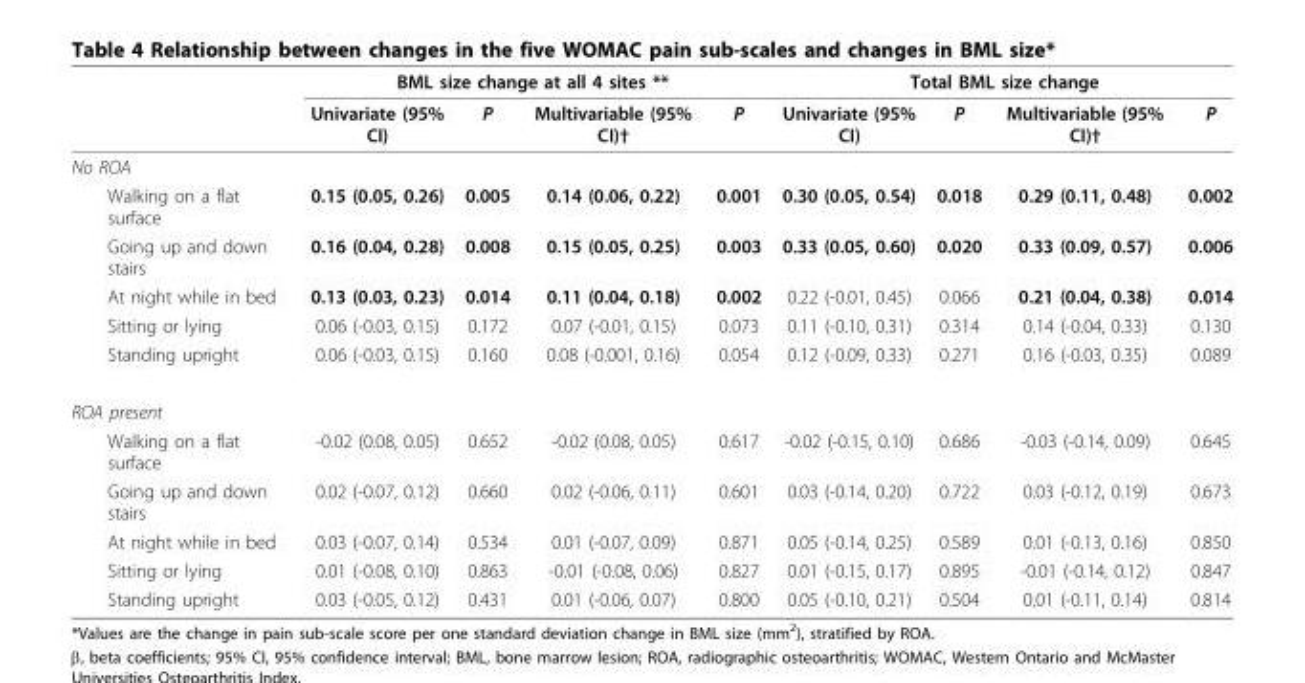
<table><thead><tr><td rowspan="2"></td><td colspan="4">BML size change at all 4 sites **</td><td colspan="4">Total BML size change</td></tr><tr><td>Univariate (95% CI)</td><td>P</td><td>Multivariable (95% CI)†</td><td>P</td><td>Univariate (95% CI)</td><td>P</td><td>Multivariable (95% CI)†</td><td>P</td></tr></thead><tbody><tr><td colspan="9">No ROA</td></tr><tr><td>Walking on a flat surface</td><td>0.15 (0.05, 0.26)</td><td>0.005</td><td>0.14 (0.06, 0.22)</td><td>0.001</td><td>0.30 (0.05, 0.54)</td><td>0.018</td><td>0.29 (0.11, 0.48)</td><td>0.002</td></tr><tr><td>Going up and down stairs</td><td>0.16 (0.04, 0.28)</td><td>0.008</td><td>0.15 (0.05, 0.25)</td><td>0.003</td><td>0.33 (0.05, 0.60)</td><td>0.020</td><td>0.33 (0.09, 0.57)</td><td>0.006</td></tr><tr><td>At night while in bed</td><td>0.13 (0.03, 0.23)</td><td>0.014</td><td>0.11 (0.04, 0.18)</td><td>0.002</td><td>0.22 (-0.01, 0.45)</td><td>0.066</td><td>0.21 (0.04, 0.38)</td><td>0.014</td></tr><tr><td>Sitting or lying</td><td>0.06 (-0.03, 0.15)</td><td>0.172</td><td>0.07 (-0.01, 0.15)</td><td>0.073</td><td>0.11 (-0.10, 0.31)</td><td>0.314</td><td>0.14 (-0.04, 0.33)</td><td>0.130</td></tr><tr><td>Standing upright</td><td>0.06 (-0.03, 0.15)</td><td>0.160</td><td>0.08 (-0.001, 0.16)</td><td>0.054</td><td>0.12 (-0.09, 0.33)</td><td>0.271</td><td>0.16 (-0.03, 0.35)</td><td>0.089</td></tr><tr><td colspan="9">ROA present</td></tr><tr><td>Walking on a flat surface</td><td>-0.02 (0.08, 0.05)</td><td>0.652</td><td>-0.02 (0.08, 0.05)</td><td>0.617</td><td>-0.02 (-0.15, 0.10)</td><td>0.686</td><td>-0.03 (-0.14, 0.09)</td><td>0.645</td></tr><tr><td>Going up and down stairs</td><td>0.02 (-0.07, 0.12)</td><td>0.660</td><td>0.02 (-0.06, 0.11)</td><td>0.601</td><td>0.03 (-0.14, 0.20)</td><td>0.722</td><td>0.03 (-0.12, 0.19)</td><td>0.673</td></tr><tr><td>At night while in bed</td><td>0.03 (-0.07, 0.14)</td><td>0.534</td><td>0.01 (-0.07, 0.09)</td><td>0.871</td><td>0.05 (-0.14, 0.25)</td><td>0.589</td><td>0.01 (-0.13, 0.16)</td><td>0.850</td></tr><tr><td>Sitting or lying</td><td>0.01 (-0.08, 0.10)</td><td>0.863</td><td>-0.01 (-0.08, 0.06)</td><td>0.827</td><td>0.01 (-0.15, 0.17)</td><td>0.895</td><td>-0.01 (-0.14, 0.12)</td><td>0.847</td></tr><tr><td>Standing upright</td><td>0.03 (-0.05, 0.12)</td><td>0.431</td><td>0.01 (-0.06, 0.07)</td><td>0.800</td><td>0.05 (-0.10, 0.21)</td><td>0.504</td><td>0.01 (-0.11, 0.14)</td><td>0.814</td></tr></tbody></table>